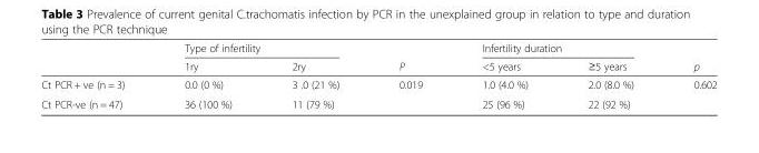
<table><thead><tr><td rowspan="2"></td><td colspan="2">Type of infertility</td><td rowspan="2">P</td><td colspan="2">Infertility duration</td><td rowspan="2">p</td></tr><tr><td>1ry</td><td>2ry</td><td>&lt;5 years</td><td>≥5 years</td></tr></thead><tbody><tr><td>Ct PCR + ve (n = 3)</td><td>0.0 (0 %)</td><td>3 .0 (21 %)</td><td>0.019</td><td>1.0 (4.0 %)</td><td>2.0 (8.0 %)</td><td>0.602</td></tr><tr><td>Ct PCR-ve (n = 47)</td><td>36 (100 %)</td><td>11 (79 %)</td><td></td><td>25 (96 %)</td><td>22 (92 %)</td><td></td></tr></tbody></table>